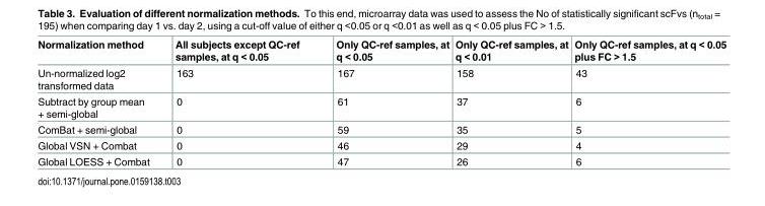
<table><thead><tr><td>Normalization method</td><td>All subjects except QC-ref samples, at q &lt; 0.05</td><td>Only QC-ref samples, at q &lt; 0.05</td><td>Only QC-ref samples, at q &lt; 0.01</td><td>Only QC-ref samples, at q &lt; 0.05 plus FC &gt; 1.5</td></tr></thead><tbody><tr><td>Un-normalized log2 transformed data</td><td>163</td><td>167</td><td>158</td><td>43</td></tr><tr><td>Subtract by group mean + semi-global</td><td>0</td><td>61</td><td>37</td><td>6</td></tr><tr><td>ComBat + semi-global</td><td>0</td><td>59</td><td>35</td><td>5</td></tr><tr><td>Global VSN + Combat</td><td>0</td><td>46</td><td>29</td><td>4</td></tr><tr><td>Global LOESS + Combat</td><td>0</td><td>47</td><td>26</td><td>6</td></tr></tbody></table>